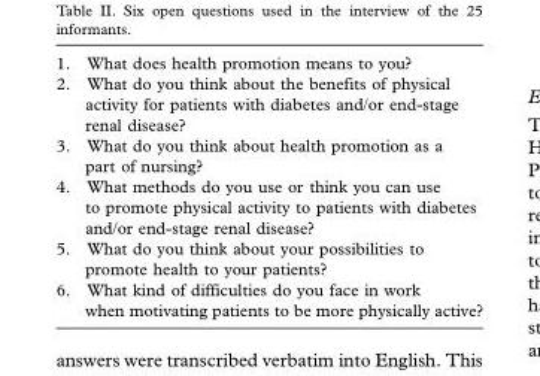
<table><tbody><tr><td>1.</td><td>What does health promotion means to you?</td></tr><tr><td>2.</td><td>What do you think about the benefits of physical activity for patients with diabetes and/or end-stage renal disease?</td></tr><tr><td>3.</td><td>What do you think about health promotion as a part of nursing?</td></tr><tr><td>4.</td><td>What methods do you use or think you can use to promote physical activity to patients with diabetes and/or end-stage renal disease?</td></tr><tr><td>5.</td><td>What do you think about your possibilities to promote health to your patients?</td></tr><tr><td>6.</td><td>What kind of difficulties do you face in work when motivating patients to be more physically active?</td></tr></tbody></table>